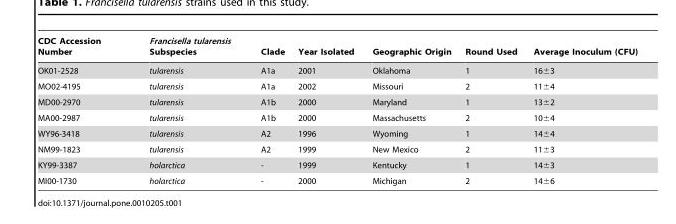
<table><thead><tr><td>CDC Accession Number</td><td>Francisella tularensis Subspecies</td><td>Clade</td><td>Year Isolated</td><td>Geographic Origin</td><td>Round Used</td><td>Average Inoculum (CFU)</td></tr></thead><tbody><tr><td>OK01-2528</td><td>tularensis</td><td>A1a</td><td>2001</td><td>Oklahoma</td><td>1</td><td>16±3</td></tr><tr><td>MO02-4195</td><td>tularensis</td><td>A1a</td><td>2002</td><td>Missouri</td><td>2</td><td>11±4</td></tr><tr><td>MD00-2970</td><td>tularensis</td><td>A1b</td><td>2000</td><td>Maryland</td><td>1</td><td>13±2</td></tr><tr><td>MA00-2987</td><td>tularensis</td><td>A1b</td><td>2000</td><td>Massachusetts</td><td>2</td><td>10±4</td></tr><tr><td>WY96-3418</td><td>tularensis</td><td>A2</td><td>1996</td><td>Wyoming</td><td>1</td><td>14±4</td></tr><tr><td>NM99-1823</td><td>tularensis</td><td>A2</td><td>1999</td><td>New Mexico</td><td>2</td><td>11±3</td></tr><tr><td>KY99-3387</td><td>holarctica</td><td>-</td><td>1999</td><td>Kentucky</td><td>1</td><td>14±3</td></tr><tr><td>MI00-1730</td><td>holarctica</td><td>-</td><td>2000</td><td>Michigan</td><td>2</td><td>14±6</td></tr></tbody></table>